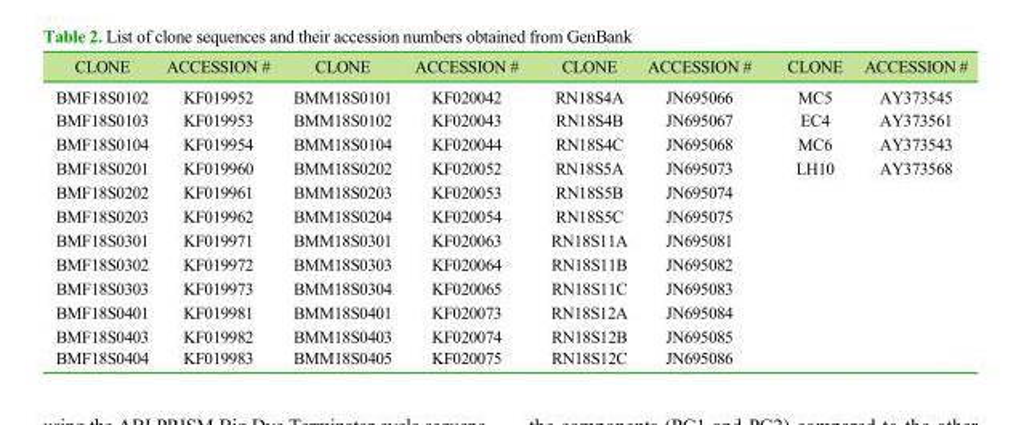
<table><thead><tr><td>CLONE</td><td>ACCESSION #</td><td>CLONE</td><td>ACCESSION #</td><td>CLONE</td><td>ACCESSION #</td><td>CLONE</td><td>ACCESSION #</td></tr></thead><tbody><tr><td>BMF18S0102</td><td>KF019952</td><td>BMM18S0101</td><td>KF020042</td><td>RN18S4A</td><td>JN695066</td><td>MC5</td><td>AY373545</td></tr><tr><td>BMF18S0103</td><td>KF019953</td><td>BMM18S0102</td><td>KF020043</td><td>RN18S4B</td><td>JN695067</td><td>EC4</td><td>AY373561</td></tr><tr><td>BMF18S0104</td><td>KF019954</td><td>BMM18S0104</td><td>KF020044</td><td>RN18S4C</td><td>JN695068</td><td>MC6</td><td>AY373543</td></tr><tr><td>BMF18S0201</td><td>KF019960</td><td>BMM18S0202</td><td>KF020052</td><td>RN18S5A</td><td>JN695073</td><td>LH10</td><td>AY373568</td></tr><tr><td>BMF18S0202</td><td>KF019961</td><td>BMM18S0203</td><td>KF020053</td><td>RN18S5B</td><td>JN695074</td><td></td><td></td></tr><tr><td>BMF18S0203</td><td>KF019962</td><td>BMM18S0204</td><td>KF020054</td><td>RN18S5C</td><td>JN695075</td><td></td><td></td></tr><tr><td>BMF18S0301</td><td>KF019971</td><td>BMM18S0301</td><td>KF020063</td><td>RN18S11A</td><td>JN695081</td><td></td><td></td></tr><tr><td>BMF18S0302</td><td>KF019972</td><td>BMM18S0303</td><td>KF020064</td><td>RN18S11B</td><td>JN695082</td><td></td><td></td></tr><tr><td>BMF18S0303</td><td>KF019973</td><td>BMM18S0304</td><td>KF020065</td><td>RN18S11C</td><td>JN695083</td><td></td><td></td></tr><tr><td>BMF18S0401</td><td>KF019981</td><td>BMM18S0401</td><td>KF020073</td><td>RN18S12A</td><td>JN695084</td><td></td><td></td></tr><tr><td>BMF18S0403</td><td>KF019982</td><td>BMM18S0403</td><td>KF020074</td><td>RN18S12B</td><td>JN695085</td><td></td><td></td></tr><tr><td>BMF18S0404</td><td>KF019983</td><td>BMM18S0405</td><td>KF020075</td><td>RN18S12C</td><td>JN695086</td><td></td><td></td></tr></tbody></table>